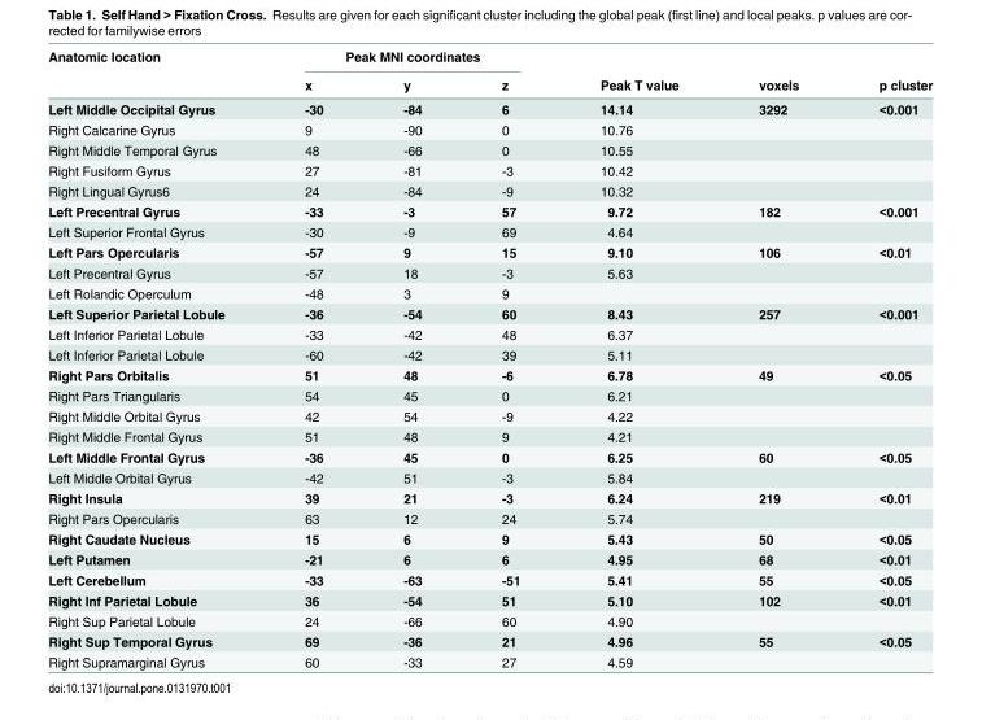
<table><thead><tr><td rowspan="2">Anatomic location</td><td colspan="3">Peak MNI coordinates</td><td rowspan="2">Peak T value</td><td rowspan="2">voxels</td><td rowspan="2">p cluster</td></tr><tr><td>x</td><td>y</td><td>z</td></tr></thead><tbody><tr><td>Left Middle Occipital Gyrus</td><td>-30</td><td>-84</td><td>6</td><td>14.14</td><td>3292</td><td>&lt;0.001</td></tr><tr><td>Right Calcarine Gyrus</td><td>9</td><td>-90</td><td>0</td><td>10.76</td><td></td><td></td></tr><tr><td>Right Middle Temporal Gyrus</td><td>48</td><td>-66</td><td>0</td><td>10.55</td><td></td><td></td></tr><tr><td>Right Fusiform Gyrus</td><td>27</td><td>-81</td><td>-3</td><td>10.42</td><td></td><td></td></tr><tr><td>Right Lingual Gyrus6</td><td>24</td><td>-84</td><td>-9</td><td>10.32</td><td></td><td></td></tr><tr><td>Left Precentral Gyrus</td><td>-33</td><td>-3</td><td>57</td><td>9.72</td><td>182</td><td>&lt;0.001</td></tr><tr><td>Left Superior Frontal Gyrus</td><td>-30</td><td>-9</td><td>69</td><td>4.64</td><td></td><td></td></tr><tr><td>Left Pars Opercularis</td><td>-57</td><td>9</td><td>15</td><td>9.10</td><td>106</td><td>&lt;0.01</td></tr><tr><td>Left Precentral Gyrus</td><td>-57</td><td>18</td><td>-3</td><td>5.63</td><td></td><td></td></tr><tr><td>Left Rolandic Operculum</td><td>-48</td><td>3</td><td>9</td><td></td><td></td><td></td></tr><tr><td>Left Superior Parietal Lobule</td><td>-36</td><td>-54</td><td>60</td><td>8.43</td><td>257</td><td>&lt;0.001</td></tr><tr><td>Left Inferior Parietal Lobule</td><td>-33</td><td>-42</td><td>48</td><td>6.37</td><td></td><td></td></tr><tr><td>Left Inferior Parietal Lobule</td><td>-60</td><td>-42</td><td>39</td><td>5.11</td><td></td><td></td></tr><tr><td>Right Pars Orbitalis</td><td>51</td><td>48</td><td>-6</td><td>6.78</td><td>49</td><td>&lt;0.05</td></tr><tr><td>Right Pars Triangularis</td><td>54</td><td>45</td><td>0</td><td>6.21</td><td></td><td></td></tr><tr><td>Right Middle Orbital Gyrus</td><td>42</td><td>54</td><td>-9</td><td>4.22</td><td></td><td></td></tr><tr><td>Right Middle Frontal Gyrus</td><td>51</td><td>48</td><td>9</td><td>4.21</td><td></td><td></td></tr><tr><td>Left Middle Frontal Gyrus</td><td>-36</td><td>45</td><td>0</td><td>6.25</td><td>60</td><td>&lt;0.05</td></tr><tr><td>Left Middle Orbital Gyrus</td><td>-42</td><td>51</td><td>-3</td><td>5.84</td><td></td><td></td></tr><tr><td>Right Insula</td><td>39</td><td>21</td><td>-3</td><td>6.24</td><td>219</td><td>&lt;0.01</td></tr><tr><td>Right Pars Opercularis</td><td>63</td><td>12</td><td>24</td><td>5.74</td><td></td><td></td></tr><tr><td>Right Caudate Nucleus</td><td>15</td><td>6</td><td>9</td><td>5.43</td><td>50</td><td>&lt;0.05</td></tr><tr><td>Left Putamen</td><td>-21</td><td>6</td><td>6</td><td>4.95</td><td>68</td><td>&lt;0.01</td></tr><tr><td>Left Cerebellum</td><td>-33</td><td>-63</td><td>-51</td><td>5.41</td><td>55</td><td>&lt;0.05</td></tr><tr><td>Right Inf Parietal Lobule</td><td>36</td><td>-54</td><td>51</td><td>5.10</td><td>102</td><td>&lt;0.01</td></tr><tr><td>Right Sup Parietal Lobule</td><td>24</td><td>-66</td><td>60</td><td>4.90</td><td></td><td></td></tr><tr><td>Right Sup Temporal Gyrus</td><td>69</td><td>-36</td><td>21</td><td>4.96</td><td>55</td><td>&lt;0.05</td></tr><tr><td>Right Supramarginal Gyrus</td><td>60</td><td>-33</td><td>27</td><td>4.59</td><td></td><td></td></tr></tbody></table>